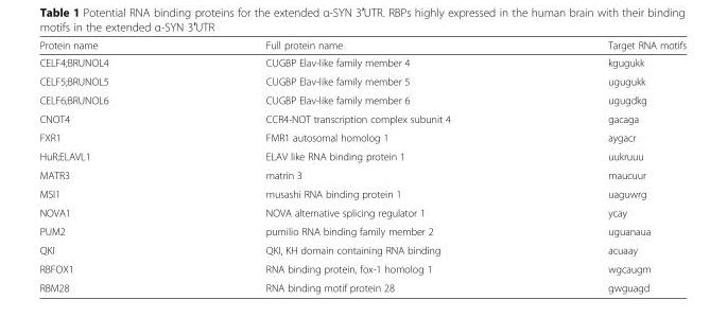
<table><thead><tr><td>Protein name</td><td>Full protein name</td><td>Target RNA motifs</td></tr></thead><tbody><tr><td>CELF4;BRUNOL4</td><td>CUGBP Elav-like family member 4</td><td>kgugukk</td></tr><tr><td>CELF5;BRUNOL5</td><td>CUGBP Elav-like family member 5</td><td>ugugukk</td></tr><tr><td>CELF6;BRUNOL6</td><td>CUGBP Elav-like family member 6</td><td>ugugdkg</td></tr><tr><td>CNOT4</td><td>CCR4-NOT transcription complex subunit 4</td><td>gacaga</td></tr><tr><td>FXR1</td><td>FMR1 autosomal homolog 1</td><td>aygacr</td></tr><tr><td>HuR;ELAVL1</td><td>ELAV like RNA binding protein 1</td><td>uukruuu</td></tr><tr><td>MATR3</td><td>matrin 3</td><td>maucuur</td></tr><tr><td>MSI1</td><td>musashi RNA binding protein 1</td><td>uaguwrg</td></tr><tr><td>NOVA1</td><td>NOVA alternative splicing regulator 1</td><td>ycay</td></tr><tr><td>PUM2</td><td>pumilio RNA binding family member 2</td><td>uguanaua</td></tr><tr><td>QKI</td><td>QKI, KH domain containing RNA binding</td><td>acuaay</td></tr><tr><td>RBFOX1</td><td>RNA binding protein, fox-1 homolog 1</td><td>wgcaugm</td></tr><tr><td>RBM28</td><td>RNA binding motif protein 28</td><td>gwguagd</td></tr></tbody></table>